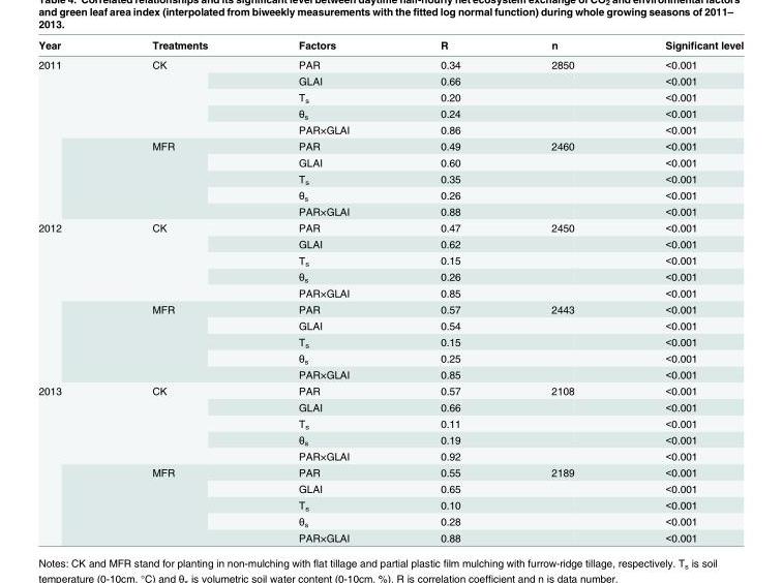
<table><thead><tr><td>Year</td><td>Treatments</td><td>Factors</td><td>R</td><td>n</td><td>Significant level</td></tr></thead><tbody><tr><td rowspan="10">2011</td><td rowspan="5">CK</td><td>PAR</td><td>0.34</td><td>2850</td><td>&lt;0.001</td></tr><tr><td>GLAI</td><td>0.66</td><td></td><td>&lt;0.001</td></tr><tr><td>T<sub>s</sub></td><td>0.20</td><td></td><td>&lt;0.001</td></tr><tr><td>θ<sub>s</sub></td><td>0.24</td><td></td><td>&lt;0.001</td></tr><tr><td>PAR×GLAI</td><td>0.86</td><td></td><td>&lt;0.001</td></tr><tr><td rowspan="5">MFR</td><td>PAR</td><td>0.49</td><td>2460</td><td>&lt;0.001</td></tr><tr><td>GLAI</td><td>0.60</td><td></td><td>&lt;0.001</td></tr><tr><td>T<sub>s</sub></td><td>0.35</td><td></td><td>&lt;0.001</td></tr><tr><td>θ<sub>s</sub></td><td>0.26</td><td></td><td>&lt;0.001</td></tr><tr><td>PAR×GLAI</td><td>0.88</td><td></td><td>&lt;0.001</td></tr><tr><td rowspan="10">2012</td><td rowspan="5">CK</td><td>PAR</td><td>0.47</td><td>2450</td><td>&lt;0.001</td></tr><tr><td>GLAI</td><td>0.62</td><td></td><td>&lt;0.001</td></tr><tr><td>T<sub>s</sub></td><td>0.15</td><td></td><td>&lt;0.001</td></tr><tr><td>θ<sub>s</sub></td><td>0.26</td><td></td><td>&lt;0.001</td></tr><tr><td>PAR×GLAI</td><td>0.85</td><td></td><td>&lt;0.001</td></tr><tr><td rowspan="5">MFR</td><td>PAR</td><td>0.57</td><td>2443</td><td>&lt;0.001</td></tr><tr><td>GLAI</td><td>0.54</td><td></td><td>&lt;0.001</td></tr><tr><td>T<sub>s</sub></td><td>0.15</td><td></td><td>&lt;0.001</td></tr><tr><td>θ<sub>s</sub></td><td>0.25</td><td></td><td>&lt;0.001</td></tr><tr><td>PAR×GLAI</td><td>0.85</td><td></td><td>&lt;0.001</td></tr><tr><td rowspan="10">2013</td><td rowspan="5">CK</td><td>PAR</td><td>0.57</td><td>2108</td><td>&lt;0.001</td></tr><tr><td>GLAI</td><td>0.66</td><td></td><td>&lt;0.001</td></tr><tr><td>T<sub>s</sub></td><td>0.11</td><td></td><td>&lt;0.001</td></tr><tr><td>θ<sub>s</sub></td><td>0.19</td><td></td><td>&lt;0.001</td></tr><tr><td>PAR×GLAI</td><td>0.92</td><td></td><td>&lt;0.001</td></tr><tr><td rowspan="5">MFR</td><td>PAR</td><td>0.55</td><td>2189</td><td>&lt;0.001</td></tr><tr><td>GLAI</td><td>0.65</td><td></td><td>&lt;0.001</td></tr><tr><td>T<sub>s</sub></td><td>0.10</td><td></td><td>&lt;0.001</td></tr><tr><td>θ<sub>s</sub></td><td>0.28</td><td></td><td>&lt;0.001</td></tr><tr><td>PAR×GLAI</td><td>0.88</td><td></td><td>&lt;0.001</td></tr></tbody></table>